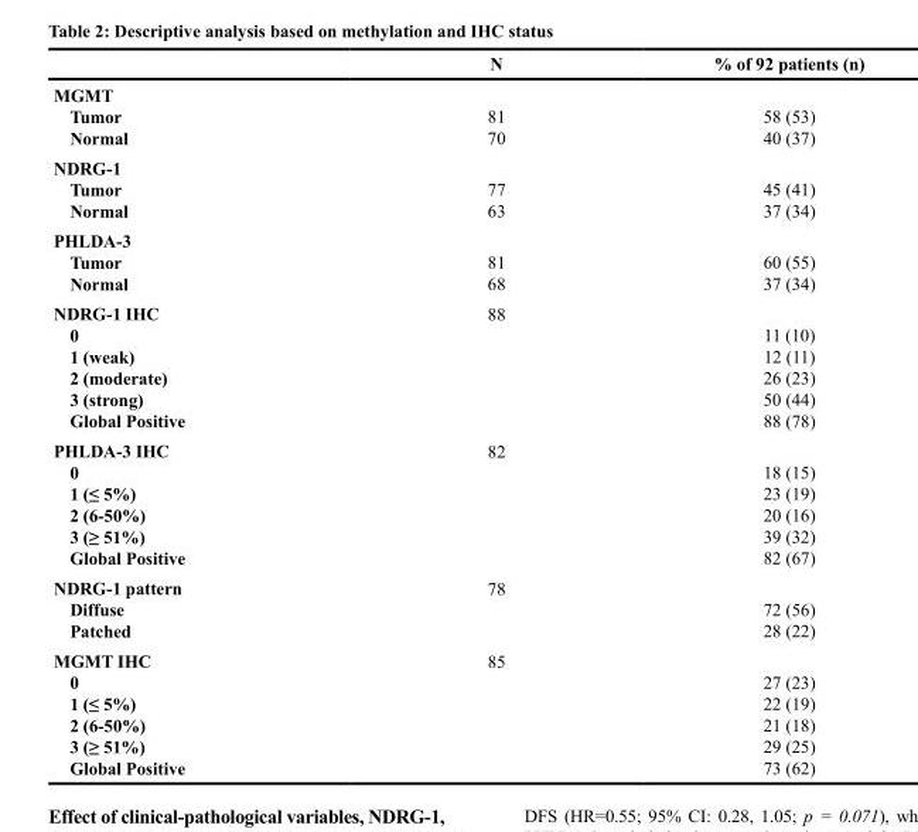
<table><thead><tr><td></td><td>N</td><td>% of 92 patients (n)</td></tr></thead><tbody><tr><td>MGMT Tumor Normal</td><td>81 70</td><td>58 (53) 40 (37)</td></tr><tr><td>NDRG-1 Tumor Normal</td><td>77 63</td><td>45 (41) 37 (34)</td></tr><tr><td>PHLDA-3 Tumor Normal</td><td>81 68</td><td>60 (55) 37 (34)</td></tr><tr><td>NDRG-1 IHC 0 1 (weak) 2 (moderate) 3 (strong) Global Positive</td><td>88</td><td>11 (10) 12 (11) 26 (23) 50 (44) 88 (78)</td></tr><tr><td>PHLDA-3 IHC 0 1 (≤ 5%) 2 (6-50%) 3 (≥ 51%) Global Positive</td><td>82</td><td>18 (15) 23 (19) 20 (16) 39 (32) 82 (67)</td></tr><tr><td>NDRG-1 pattern Diffuse Patched</td><td>78</td><td>72 (56) 28 (22)</td></tr><tr><td>MGMT IHC 0 1 (≤ 5%) 2 (6-50%) 3 (≥ 51%) Global Positive</td><td>85</td><td>27 (23) 22 (19) 21 (18) 29 (25) 73 (62)</td></tr></tbody></table>